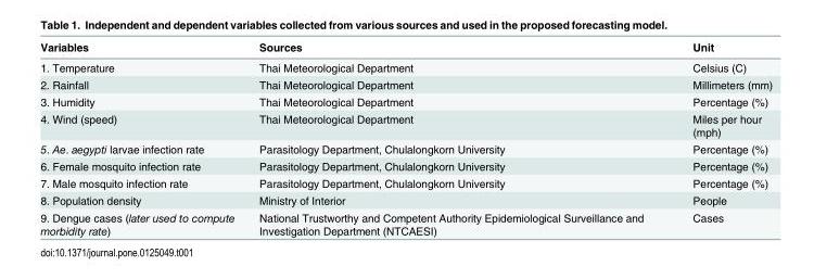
<table><thead><tr><td>Variables</td><td>Sources</td><td>Unit</td></tr></thead><tbody><tr><td>1. Temperature</td><td>Thai Meteorological Department</td><td>Celsius (C)</td></tr><tr><td>2. Rainfall</td><td>Thai Meteorological Department</td><td>Millimeters (mm)</td></tr><tr><td>3. Humidity</td><td>Thai Meteorological Department</td><td>Percentage (%)</td></tr><tr><td>4. Wind (speed)</td><td>Thai Meteorological Department</td><td>Miles per hour (mph)</td></tr><tr><td>5. Ae. aegypti larvae infection rate</td><td>Parasitology Department, Chulalongkorn University</td><td>Percentage (%)</td></tr><tr><td>6. Female mosquito infection rate</td><td>Parasitology Department, Chulalongkorn University</td><td>Percentage (%)</td></tr><tr><td>7. Male mosquito infection rate</td><td>Parasitology Department, Chulalongkorn University</td><td>Percentage (%)</td></tr><tr><td>8. Population density</td><td>Ministry of Interior</td><td>People</td></tr><tr><td>9. Dengue cases (later used to compute morbidity rate)</td><td>National Trustworthy and Competent Authority Epidemiological Surveillance and Investigation Department (NTCAESI)</td><td>Cases</td></tr></tbody></table>